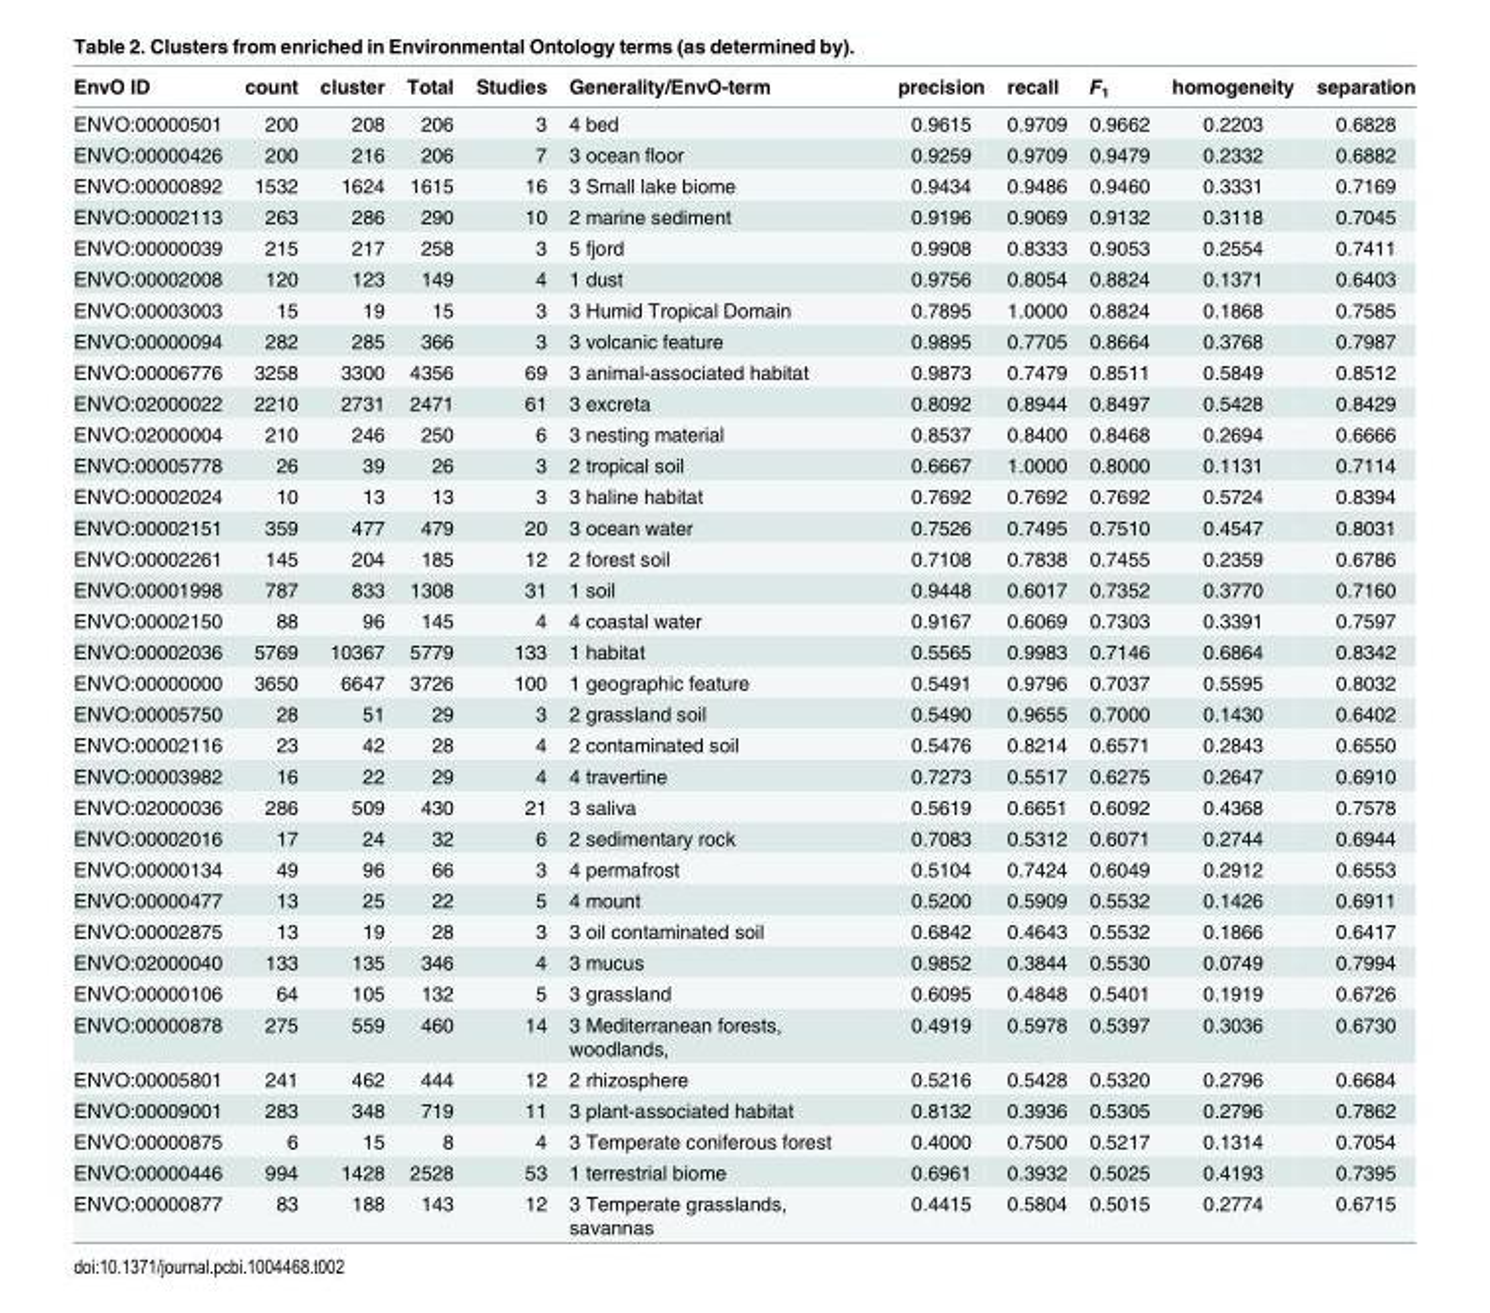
<table><thead><tr><td>EnvO ID</td><td>count</td><td>cluster</td><td>Total</td><td>Studies</td><td>Generality/EnvO-term</td><td>precision</td><td>recall</td><td>F<sub>1</sub></td><td>homogeneity</td><td>separation</td></tr></thead><tbody><tr><td>ENVO:00000501</td><td>200</td><td>208</td><td>206</td><td>3</td><td>4 bed</td><td>0.9615</td><td>0.9709</td><td>0.9662</td><td>0.2203</td><td>0.6828</td></tr><tr><td>ENVO:00000426</td><td>200</td><td>216</td><td>206</td><td>7</td><td>3 ocean floor</td><td>0.9259</td><td>0.9709</td><td>0.9479</td><td>0.2332</td><td>0.6882</td></tr><tr><td>ENVO:00000892</td><td>1532</td><td>1624</td><td>1615</td><td>16</td><td>3 Small lake biome</td><td>0.9434</td><td>0.9486</td><td>0.9460</td><td>0.3331</td><td>0.7169</td></tr><tr><td>ENVO:00002113</td><td>263</td><td>286</td><td>290</td><td>10</td><td>2 marine sediment</td><td>0.9196</td><td>0.9069</td><td>0.9132</td><td>0.3118</td><td>0.7045</td></tr><tr><td>ENVO:00000039</td><td>215</td><td>217</td><td>258</td><td>3</td><td>5 fjord</td><td>0.9908</td><td>0.8333</td><td>0.9053</td><td>0.2554</td><td>0.7411</td></tr><tr><td>ENVO:00002008</td><td>120</td><td>123</td><td>149</td><td>4</td><td>1 dust</td><td>0.9756</td><td>0.8054</td><td>0.8824</td><td>0.1371</td><td>0.6403</td></tr><tr><td>ENVO:00003003</td><td>15</td><td>19</td><td>15</td><td>3</td><td>3 Humid Tropical Domain</td><td>0.7895</td><td>1.0000</td><td>0.8824</td><td>0.1868</td><td>0.7585</td></tr><tr><td>ENVO:00000094</td><td>282</td><td>285</td><td>366</td><td>3</td><td>3 volcanic feature</td><td>0.9895</td><td>0.7705</td><td>0.8664</td><td>0.3768</td><td>0.7987</td></tr><tr><td>ENVO:00006776</td><td>3258</td><td>3300</td><td>4356</td><td>69</td><td>3 animal-associated habitat</td><td>0.9873</td><td>0.7479</td><td>0.8511</td><td>0.5849</td><td>0.8512</td></tr><tr><td>ENVO:02000022</td><td>2210</td><td>2731</td><td>2471</td><td>61</td><td>3 excreta</td><td>0.8092</td><td>0.8944</td><td>0.8497</td><td>0.5428</td><td>0.8429</td></tr><tr><td>ENVO:02000004</td><td>210</td><td>246</td><td>250</td><td>6</td><td>3 nesting material</td><td>0.8537</td><td>0.8400</td><td>0.8468</td><td>0.2694</td><td>0.6666</td></tr><tr><td>ENVO:00005778</td><td>26</td><td>39</td><td>26</td><td>3</td><td>2 tropical soil</td><td>0.6667</td><td>1.0000</td><td>0.8000</td><td>0.1131</td><td>0.7114</td></tr><tr><td>ENVO:00002024</td><td>10</td><td>13</td><td>13</td><td>3</td><td>3 haline habitat</td><td>0.7692</td><td>0.7692</td><td>0.7692</td><td>0.5724</td><td>0.8394</td></tr><tr><td>ENVO:00002151</td><td>359</td><td>477</td><td>479</td><td>20</td><td>3 ocean water</td><td>0.7526</td><td>0.7495</td><td>0.7510</td><td>0.4547</td><td>0.8031</td></tr><tr><td>ENVO:00002261</td><td>145</td><td>204</td><td>185</td><td>12</td><td>2 forest soil</td><td>0.7108</td><td>0.7838</td><td>0.7455</td><td>0.2359</td><td>0.6786</td></tr><tr><td>ENVO:00001998</td><td>787</td><td>833</td><td>1308</td><td>31</td><td>1 soil</td><td>0.9448</td><td>0.6017</td><td>0.7352</td><td>0.3770</td><td>0.7160</td></tr><tr><td>ENVO:00002150</td><td>88</td><td>96</td><td>145</td><td>4</td><td>4 coastal water</td><td>0.9167</td><td>0.6069</td><td>0.7303</td><td>0.3391</td><td>0.7597</td></tr><tr><td>ENVO:00002036</td><td>5769</td><td>10367</td><td>5779</td><td>133</td><td>1 habitat</td><td>0.5565</td><td>0.9983</td><td>0.7146</td><td>0.6864</td><td>0.8342</td></tr><tr><td>ENVO:00000000</td><td>3650</td><td>6647</td><td>3726</td><td>100</td><td>1 geographic feature</td><td>0.5491</td><td>0.9796</td><td>0.7037</td><td>0.5595</td><td>0.8032</td></tr><tr><td>ENVO:00005750</td><td>28</td><td>51</td><td>29</td><td>3</td><td>2 grassland soil</td><td>0.5490</td><td>0.9655</td><td>0.7000</td><td>0.1430</td><td>0.6402</td></tr><tr><td>ENVO:00002116</td><td>23</td><td>42</td><td>28</td><td>4</td><td>2 contaminated soil</td><td>0.5476</td><td>0.8214</td><td>0.6571</td><td>0.2843</td><td>0.6550</td></tr><tr><td>ENVO:00003982</td><td>16</td><td>22</td><td>29</td><td>4</td><td>4 travertine</td><td>0.7273</td><td>0.5517</td><td>0.6275</td><td>0.2647</td><td>0.6910</td></tr><tr><td>ENVO:02000036</td><td>286</td><td>509</td><td>430</td><td>21</td><td>3 saliva</td><td>0.5619</td><td>0.6651</td><td>0.6092</td><td>0.4368</td><td>0.7578</td></tr><tr><td>ENVO:00002016</td><td>17</td><td>24</td><td>32</td><td>6</td><td>2 sedimentary rock</td><td>0.7083</td><td>0.5312</td><td>0.6071</td><td>0.2744</td><td>0.6944</td></tr><tr><td>ENVO:00000134</td><td>49</td><td>96</td><td>66</td><td>3</td><td>4 permafrost</td><td>0.5104</td><td>0.7424</td><td>0.6049</td><td>0.2912</td><td>0.6553</td></tr><tr><td>ENVO:00000477</td><td>13</td><td>25</td><td>22</td><td>5</td><td>4 mount</td><td>0.5200</td><td>0.5909</td><td>0.5532</td><td>0.1426</td><td>0.6911</td></tr><tr><td>ENVO:00002875</td><td>13</td><td>19</td><td>28</td><td>3</td><td>3 oil contaminated soil</td><td>0.6842</td><td>0.4643</td><td>0.5532</td><td>0.1866</td><td>0.6417</td></tr><tr><td>ENVO:02000040</td><td>133</td><td>135</td><td>346</td><td>4</td><td>3 mucus</td><td>0.9852</td><td>0.3844</td><td>0.5530</td><td>0.0749</td><td>0.7994</td></tr><tr><td>ENVO:00000106</td><td>64</td><td>105</td><td>132</td><td>5</td><td>3 grassland</td><td>0.6095</td><td>0.4848</td><td>0.5401</td><td>0.1919</td><td>0.6726</td></tr><tr><td>ENVO:00000878</td><td>275</td><td>559</td><td>460</td><td>14</td><td>3 Mediterranean forests, woodlands,</td><td>0.4919</td><td>0.5978</td><td>0.5397</td><td>0.3036</td><td>0.6730</td></tr><tr><td>ENVO:00005801</td><td>241</td><td>462</td><td>444</td><td>12</td><td>2 rhizosphere</td><td>0.5216</td><td>0.5428</td><td>0.5320</td><td>0.2796</td><td>0.6684</td></tr><tr><td>ENVO:00009001</td><td>283</td><td>348</td><td>719</td><td>11</td><td>3 plant-associated habitat</td><td>0.8132</td><td>0.3936</td><td>0.5305</td><td>0.2796</td><td>0.7862</td></tr><tr><td>ENVO:00000875</td><td>6</td><td>15</td><td>8</td><td>4</td><td>3 Temperate coniferous forest</td><td>0.4000</td><td>0.7500</td><td>0.5217</td><td>0.1314</td><td>0.7054</td></tr><tr><td>ENVO:00000446</td><td>994</td><td>1428</td><td>2528</td><td>53</td><td>1 terrestrial biome</td><td>0.6961</td><td>0.3932</td><td>0.5025</td><td>0.4193</td><td>0.7395</td></tr><tr><td>ENVO:00000877</td><td>83</td><td>188</td><td>143</td><td>12</td><td>3 Temperate grasslands, savannas</td><td>0.4415</td><td>0.5804</td><td>0.5015</td><td>0.2774</td><td>0.6715</td></tr></tbody></table>